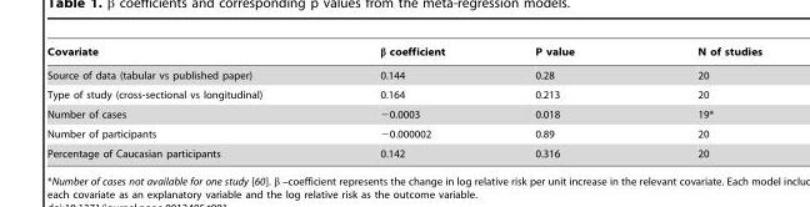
<table><thead><tr><td>Covariate</td><td>β coefficient</td><td>P value</td><td>N of studies</td></tr></thead><tbody><tr><td>Source of data (tabular vs published paper)</td><td>0.144</td><td>0.28</td><td>20</td></tr><tr><td>Type of study (cross-sectional vs longitudinal)</td><td>0.164</td><td>0.213</td><td>20</td></tr><tr><td>Number of cases</td><td>−0.0003</td><td>0.018</td><td>19*</td></tr><tr><td>Number of participants</td><td>−0.000002</td><td>0.89</td><td>20</td></tr><tr><td>Percentage of Caucasian participants</td><td>0.142</td><td>0.316</td><td>20</td></tr></tbody></table>